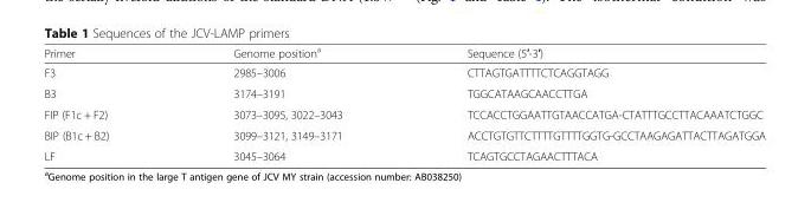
<table><thead><tr><td>Primer</td><td>Genome position<sup>a</sup></td><td>Sequence (5′-3′)</td></tr></thead><tbody><tr><td>F3</td><td>2985–3006</td><td>CTTAGTGATTTTCTCAGGTAGG</td></tr><tr><td>B3</td><td>3174–3191</td><td>TGGCATAAGCAACCTTGA</td></tr><tr><td>FIP (F1c + F2)</td><td>3073–3095, 3022–3043</td><td>TCCACCTGGAATTGTAACCATGA-CTATTTGCCTTACAAATCTGGC</td></tr><tr><td>BIP (B1c + B2)</td><td>3099–3121, 3149–3171</td><td>ACCTGTGTTCTTTTGTTTTGGTG-GCCTAAGAGATTACTTAGATGGA</td></tr><tr><td>LF</td><td>3045–3064</td><td>TCAGTGCCTAGAACTTTACA</td></tr></tbody></table>